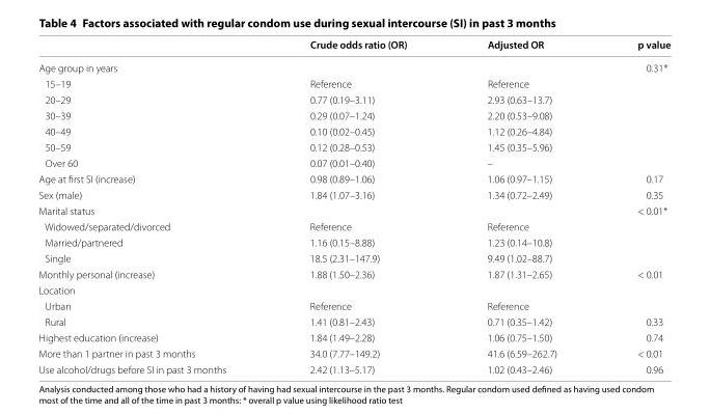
<table><thead><tr><td></td><td>Crude odds ratio (OR)</td><td>Adjusted OR</td><td>p value</td></tr></thead><tbody><tr><td>Age group in years</td><td></td><td></td><td>0.31*</td></tr><tr><td>15–19</td><td>Reference</td><td>Reference</td><td></td></tr><tr><td>20–29</td><td>0.77 (0.19–3.11)</td><td>2.93 (0.63–13.7)</td><td></td></tr><tr><td>30–39</td><td>0.29 (0.07–1.24)</td><td>2.20 (0.53–9.08)</td><td></td></tr><tr><td>40–49</td><td>0.10 (0.02–0.45)</td><td>1.12 (0.26–4.84)</td><td></td></tr><tr><td>50–59</td><td>0.12 (0.28–0.53)</td><td>1.45 (0.35–5.96)</td><td></td></tr><tr><td>Over 60</td><td>0.07 (0.01–0.40)</td><td>–</td><td></td></tr><tr><td>Age at first SI (increase)</td><td>0.98 (0.89–1.06)</td><td>1.06 (0.97–1.15)</td><td>0.17</td></tr><tr><td>Sex (male)</td><td>1.84 (1.07–3.16)</td><td>1.34 (0.72–2.49)</td><td>0.35</td></tr><tr><td>Marital status</td><td></td><td></td><td>&lt; 0.01*</td></tr><tr><td>Widowed/separated/divorced</td><td>Reference</td><td>Reference</td><td></td></tr><tr><td>Married/partnered</td><td>1.16 (0.15–8.88)</td><td>1.23 (0.14–10.8)</td><td></td></tr><tr><td>Single</td><td>18.5 (2.31–147.9)</td><td>9.49 (1.02–88.7)</td><td></td></tr><tr><td>Monthly personal (increase)</td><td>1.88 (1.50–2.36)</td><td>1.87 (1.31–2.65)</td><td>&lt; 0.01</td></tr><tr><td colspan="4">Location</td></tr><tr><td>Urban</td><td>Reference</td><td>Reference</td><td></td></tr><tr><td>Rural</td><td>1.41 (0.81–2.43)</td><td>0.71 (0.35–1.42)</td><td>0.33</td></tr><tr><td>Highest education (increase)</td><td>1.84 (1.49–2.28)</td><td>1.06 (0.75–1.50)</td><td>0.74</td></tr><tr><td>More than 1 partner in past 3 months</td><td>34.0 (7.77–149.2)</td><td>41.6 (6.59–262.7)</td><td>&lt; 0.01</td></tr><tr><td>Use alcohol/drugs before SI in past 3 months</td><td>2.42 (1.13–5.17)</td><td>1.02 (0.43–2.46)</td><td>0.96</td></tr></tbody></table>